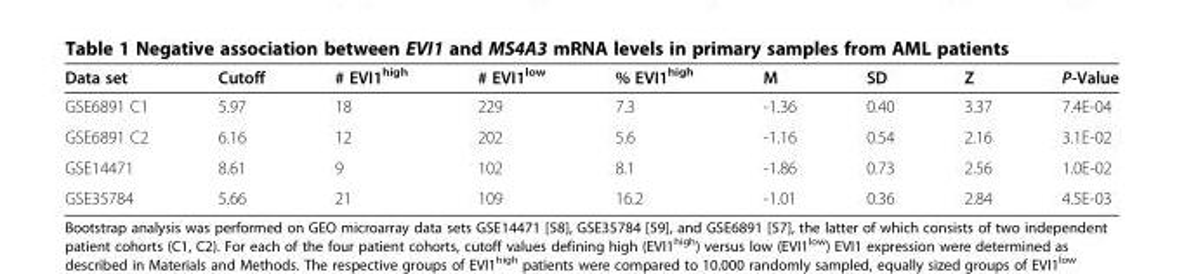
<table><thead><tr><td>Data set</td><td>Cutoff</td><td># EVI1<sup>high</sup></td><td># EVI1<sup>low</sup></td><td>% EVI1<sup>high</sup></td><td>M</td><td>SD</td><td>Z</td><td>P-Value</td></tr></thead><tbody><tr><td>GSE6891 C1</td><td>5.97</td><td>18</td><td>229</td><td>7.3</td><td>-1.36</td><td>0.40</td><td>3.37</td><td>7.4E-04</td></tr><tr><td>GSE6891 C2</td><td>6.16</td><td>12</td><td>202</td><td>5.6</td><td>-1.16</td><td>0.54</td><td>2.16</td><td>3.1E-02</td></tr><tr><td>GSE14471</td><td>8.61</td><td>9</td><td>102</td><td>8.1</td><td>-1.86</td><td>0.73</td><td>2.56</td><td>1.0E-02</td></tr><tr><td>GSE35784</td><td>5.66</td><td>21</td><td>109</td><td>16.2</td><td>-1.01</td><td>0.36</td><td>2.84</td><td>4.5E-03</td></tr></tbody></table>